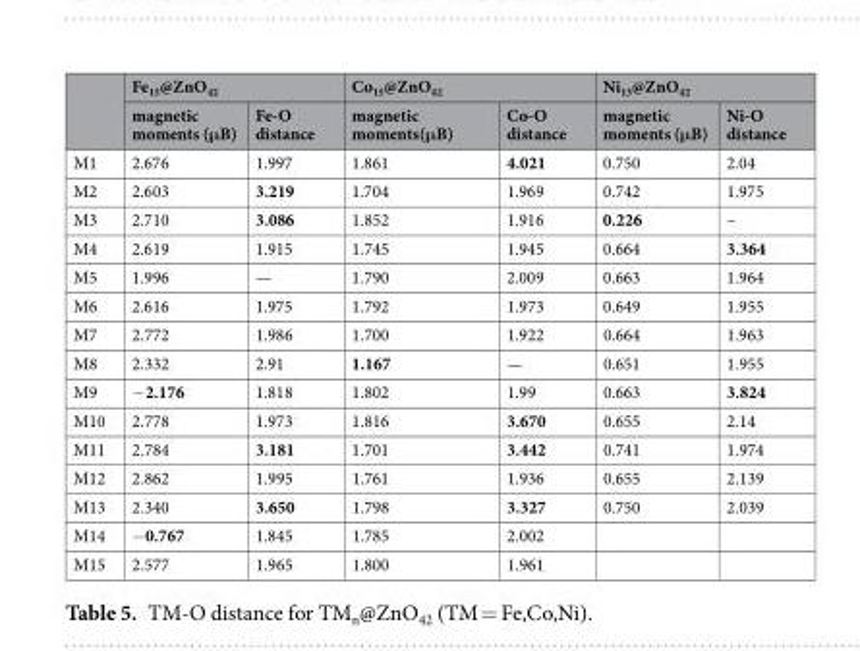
<table><thead><tr><td rowspan="2"></td><td colspan="2">Fe<sub>15</sub>@ZnO<sub>42</sub></td><td colspan="2">Co<sub>15</sub>@ZnO<sub>42</sub></td><td colspan="2">Ni<sub>13</sub>@ZnO<sub>42</sub></td></tr><tr><td>magnetic moments (μB)</td><td>Fe-O distance</td><td>magnetic moments(μB)</td><td>Co-O distance</td><td>magnetic moments (μB)</td><td>Ni-O distance</td></tr></thead><tbody><tr><td>M1</td><td>2.676</td><td>1.997</td><td>1.861</td><td>4.021</td><td>0.750</td><td>2.04</td></tr><tr><td>M2</td><td>2.603</td><td>3.219</td><td>1.704</td><td>1.969</td><td>0.742</td><td>1.975</td></tr><tr><td>M3</td><td>2.710</td><td>3.086</td><td>1.852</td><td>1.916</td><td>0.226</td><td>–</td></tr><tr><td>M4</td><td>2.619</td><td>1.915</td><td>1.745</td><td>1.945</td><td>0.664</td><td>3.364</td></tr><tr><td>M5</td><td>1.996</td><td>—</td><td>1.790</td><td>2.009</td><td>0.663</td><td>1.964</td></tr><tr><td>M6</td><td>2.616</td><td>1.975</td><td>1.792</td><td>1.973</td><td>0.649</td><td>1.955</td></tr><tr><td>M7</td><td>2.772</td><td>1.986</td><td>1.700</td><td>1.922</td><td>0.664</td><td>1.963</td></tr><tr><td>M8</td><td>2.332</td><td>2.91</td><td>1.167</td><td>—</td><td>0.651</td><td>1.955</td></tr><tr><td>M9</td><td>−2.176</td><td>1.818</td><td>1.802</td><td>1.99</td><td>0.663</td><td>3.824</td></tr><tr><td>M10</td><td>2.778</td><td>1.973</td><td>1.816</td><td>3.670</td><td>0.655</td><td>2.14</td></tr><tr><td>M11</td><td>2.784</td><td>3.181</td><td>1.701</td><td>3.442</td><td>0.741</td><td>1.974</td></tr><tr><td>M12</td><td>2.862</td><td>1.995</td><td>1.761</td><td>1.936</td><td>0.655</td><td>2.139</td></tr><tr><td>M13</td><td>2.340</td><td>3.650</td><td>1.798</td><td>3.327</td><td>0.750</td><td>2.039</td></tr><tr><td>M14</td><td>−0.767</td><td>1.845</td><td>1.785</td><td>2.002</td><td></td><td></td></tr><tr><td>M15</td><td>2.577</td><td>1.965</td><td>1.800</td><td>1.961</td><td></td><td></td></tr></tbody></table>